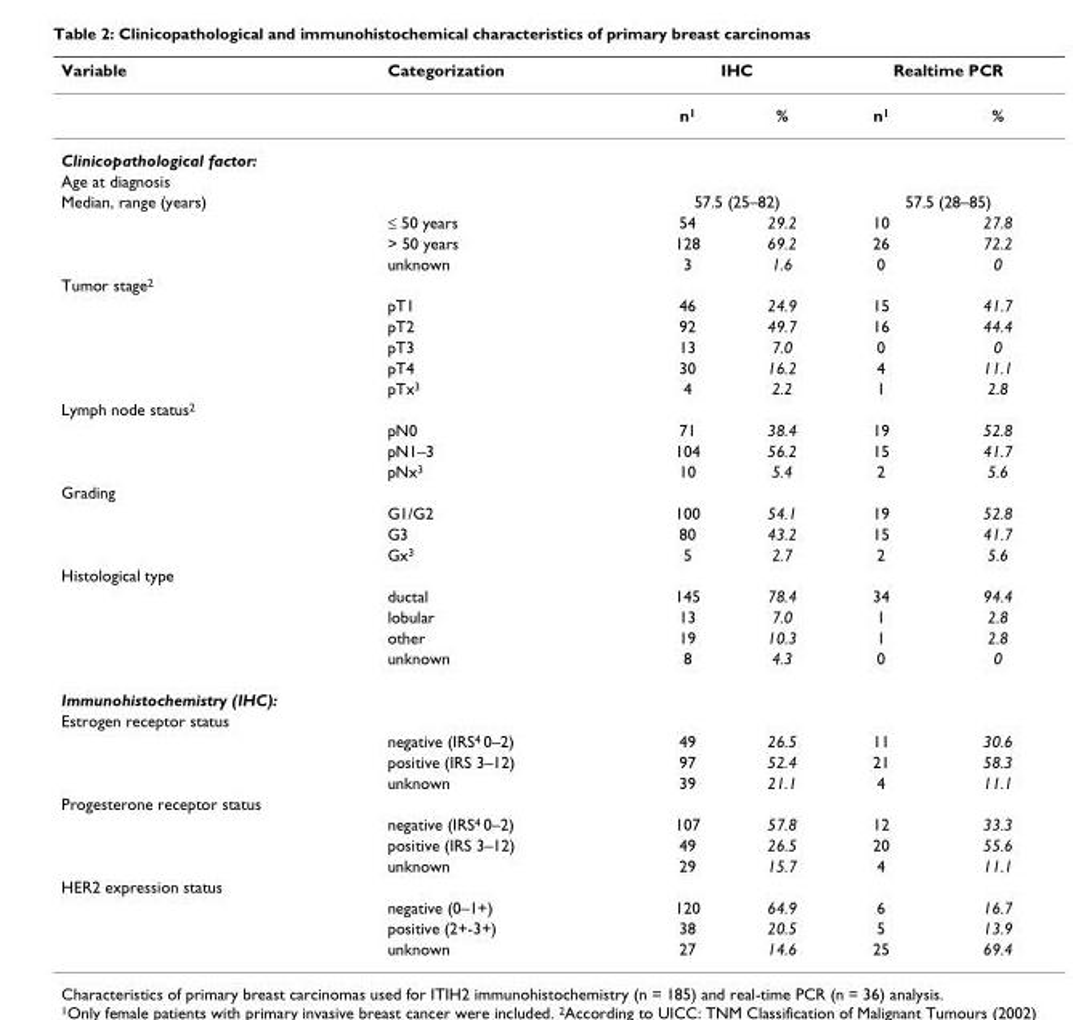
<table><thead><tr><td rowspan="2">Variable</td><td rowspan="2">Categorization</td><td colspan="2">IHC</td><td colspan="2">Realtime PCR</td></tr><tr><td>n<sup>1</sup></td><td>%</td><td>n<sup>1</sup></td><td>%</td></tr></thead><tbody><tr><td colspan="6">Clinicopathological factor:</td></tr><tr><td colspan="6">Age at diagnosis</td></tr><tr><td colspan="2">Median, range (years)</td><td colspan="2">57.5 (25–82)</td><td colspan="2">57.5 (28–85)</td></tr><tr><td></td><td>≤ 50 years</td><td>54</td><td>29.2</td><td>10</td><td>27.8</td></tr><tr><td></td><td>&gt; 50 years</td><td>128</td><td>69.2</td><td>26</td><td>72.2</td></tr><tr><td></td><td>unknown</td><td>3</td><td>1.6</td><td>0</td><td>0</td></tr><tr><td colspan="6">Tumor stage<sup>2</sup></td></tr><tr><td></td><td>pT1</td><td>46</td><td>24.9</td><td>15</td><td>41.7</td></tr><tr><td></td><td>pT2</td><td>92</td><td>49.7</td><td>16</td><td>44.4</td></tr><tr><td></td><td>pT3</td><td>13</td><td>7.0</td><td>0</td><td>0</td></tr><tr><td></td><td>pT4</td><td>30</td><td>16.2</td><td>4</td><td>11.1</td></tr><tr><td></td><td>pTx<sup>3</sup></td><td>4</td><td>2.2</td><td>1</td><td>2.8</td></tr><tr><td colspan="6">Lymph node status<sup>2</sup></td></tr><tr><td></td><td>pN0</td><td>71</td><td>38.4</td><td>19</td><td>52.8</td></tr><tr><td></td><td>pN1–3</td><td>104</td><td>56.2</td><td>15</td><td>41.7</td></tr><tr><td></td><td>pNx<sup>3</sup></td><td>10</td><td>5.4</td><td>2</td><td>5.6</td></tr><tr><td colspan="6">Grading</td></tr><tr><td></td><td>G1/G2</td><td>100</td><td>54.1</td><td>19</td><td>52.8</td></tr><tr><td></td><td>G3</td><td>80</td><td>43.2</td><td>15</td><td>41.7</td></tr><tr><td></td><td>Gx<sup>3</sup></td><td>5</td><td>2.7</td><td>2</td><td>5.6</td></tr><tr><td colspan="6">Histological type</td></tr><tr><td></td><td>ductal</td><td>145</td><td>78.4</td><td>34</td><td>94.4</td></tr><tr><td></td><td>lobular</td><td>13</td><td>7.0</td><td>1</td><td>2.8</td></tr><tr><td></td><td>other</td><td>19</td><td>10.3</td><td>1</td><td>2.8</td></tr><tr><td></td><td>unknown</td><td>8</td><td>4.3</td><td>0</td><td>0</td></tr><tr><td colspan="6">Immunohistochemistry (IHC):</td></tr><tr><td colspan="6">Estrogen receptor status</td></tr><tr><td></td><td>negative (IRS<sup>4</sup> 0–2)</td><td>49</td><td>26.5</td><td>11</td><td>30.6</td></tr><tr><td></td><td>positive (IRS 3–12)</td><td>97</td><td>52.4</td><td>21</td><td>58.3</td></tr><tr><td></td><td>unknown</td><td>39</td><td>21.1</td><td>4</td><td>11.1</td></tr><tr><td colspan="6">Progesterone receptor status</td></tr><tr><td></td><td>negative (IRS<sup>4</sup> 0–2)</td><td>107</td><td>57.8</td><td>12</td><td>33.3</td></tr><tr><td></td><td>positive (IRS 3–12)</td><td>49</td><td>26.5</td><td>20</td><td>55.6</td></tr><tr><td></td><td>unknown</td><td>29</td><td>15.7</td><td>4</td><td>11.1</td></tr><tr><td colspan="6">HER2 expression status</td></tr><tr><td></td><td>negative (0–1+)</td><td>120</td><td>64.9</td><td>6</td><td>16.7</td></tr><tr><td></td><td>positive (2+-3+)</td><td>38</td><td>20.5</td><td>5</td><td>13.9</td></tr><tr><td></td><td>unknown</td><td>27</td><td>14.6</td><td>25</td><td>69.4</td></tr></tbody></table>